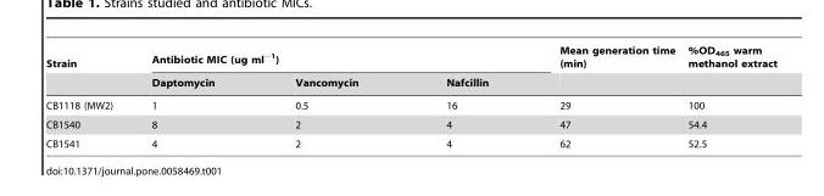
<table><thead><tr><td rowspan="2">Strain</td><td colspan="3">Antibiotic MIC (ug ml<sup>−1</sup>)</td><td rowspan="2">Mean generation time (min)</td><td rowspan="2">%OD<sub>465</sub> warm methanol extract</td></tr><tr><td>Daptomycin</td><td>Vancomycin</td><td>Nafcillin</td></tr></thead><tbody><tr><td>CB1118 (MW2)</td><td>1</td><td>0.5</td><td>16</td><td>29</td><td>100</td></tr><tr><td>CB1540</td><td>8</td><td>2</td><td>4</td><td>47</td><td>54.4</td></tr><tr><td>CB1541</td><td>4</td><td>2</td><td>4</td><td>62</td><td>52.5</td></tr></tbody></table>